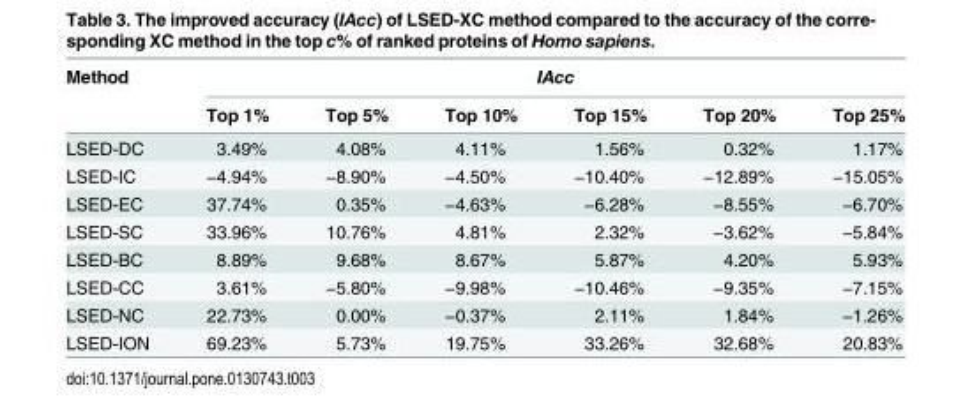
<table><thead><tr><td rowspan="2">Method</td><td colspan="6">IAcc</td></tr><tr><td>Top 1%</td><td>Top 5%</td><td>Top 10%</td><td>Top 15%</td><td>Top 20%</td><td>Top 25%</td></tr></thead><tbody><tr><td>LSED-DC</td><td>3.49%</td><td>4.08%</td><td>4.11%</td><td>1.56%</td><td>0.32%</td><td>1.17%</td></tr><tr><td>LSED-IC</td><td>−4.94%</td><td>−8.90%</td><td>−4.50%</td><td>−10.40%</td><td>−12.89%</td><td>−15.05%</td></tr><tr><td>LSED-EC</td><td>37.74%</td><td>0.35%</td><td>−4.63%</td><td>−6.28%</td><td>−8.55%</td><td>−6.70%</td></tr><tr><td>LSED-SC</td><td>33.96%</td><td>10.76%</td><td>4.81%</td><td>2.32%</td><td>−3.62%</td><td>−5.84%</td></tr><tr><td>LSED-BC</td><td>8.89%</td><td>9.68%</td><td>8.67%</td><td>5.87%</td><td>4.20%</td><td>5.93%</td></tr><tr><td>LSED-CC</td><td>3.61%</td><td>−5.80%</td><td>−9.98%</td><td>−10.46%</td><td>−9.35%</td><td>−7.15%</td></tr><tr><td>LSED-NC</td><td>22.73%</td><td>0.00%</td><td>−0.37%</td><td>2.11%</td><td>1.84%</td><td>−1.26%</td></tr><tr><td>LSED-ION</td><td>69.23%</td><td>5.73%</td><td>19.75%</td><td>33.26%</td><td>32.68%</td><td>20.83%</td></tr></tbody></table>